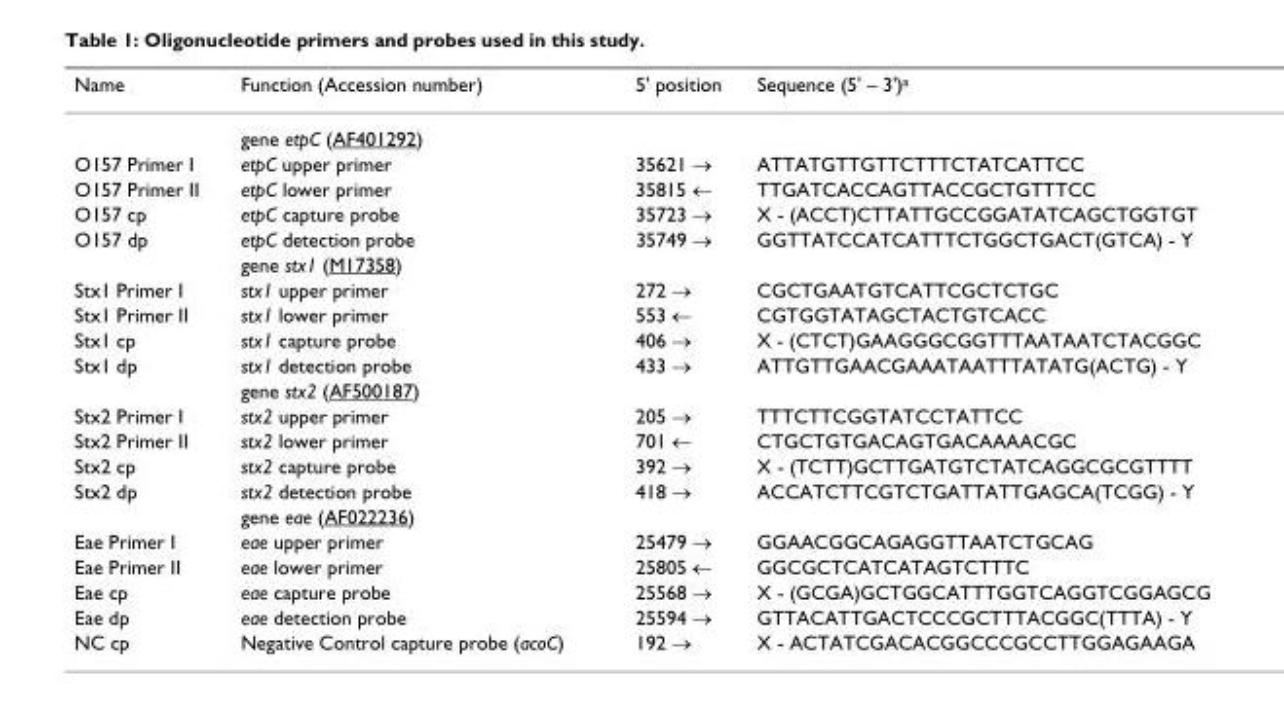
<table><thead><tr><td>Name</td><td>Function (Accession number)</td><td>5&#x27; position</td><td>Sequence (5&#x27; – 3&#x27;)<sup>a</sup></td></tr></thead><tbody><tr><td></td><td>gene etpC (AF401292)</td><td></td><td></td></tr><tr><td>O157 Primer I</td><td>etpC upper primer</td><td>35621 →</td><td>ATTATGTTGTTCTTTCTATCATTCC</td></tr><tr><td>O157 Primer II</td><td>etpC lower primer</td><td>35815 ←</td><td>TTGATCACCAGTTACCGCTGTTTCC</td></tr><tr><td>O157 cp</td><td>etpC capture probe</td><td>35723 →</td><td>X - (ACCT)CTTATTGCCGGATATCAGCTGGTGT</td></tr><tr><td rowspan="2">O157 dp</td><td>etpC detection probe</td><td>35749 →</td><td>GGTTATCCATCATTTCTGGCTGACT(GTCA) - Y</td></tr><tr><td>gene stx1 (M17358)</td><td></td><td></td></tr><tr><td>Stx1 Primer I</td><td>stx1 upper primer</td><td>272 →</td><td>CGCTGAATGTCATTCGCTCTGC</td></tr><tr><td>Stx1 Primer II</td><td>stx1 lower primer</td><td>553 ←</td><td>CGTGGTATAGCTACTGTCACC</td></tr><tr><td>Stx1 cp</td><td>stx1 capture probe</td><td>406 →</td><td>X - (CTCT)GAAGGGCGGTTTAATAATCTACGGC</td></tr><tr><td rowspan="2">Stx1 dp</td><td>stx1 detection probe</td><td>433 →</td><td>ATTGTTGAACGAAATAATTTATATG(ACTG) - Y</td></tr><tr><td>gene stx2 (AF500187)</td><td></td><td></td></tr><tr><td>Stx2 Primer I</td><td>stx2 upper primer</td><td>205 →</td><td>TTTCTTCGGTATCCTATTCC</td></tr><tr><td>Stx2 Primer II</td><td>stx2 lower primer</td><td>701 ←</td><td>CTGCTGTGACAGTGACAAAACGC</td></tr><tr><td>Stx2 cp</td><td>stx2 capture probe</td><td>392 →</td><td>X - (TCTT)GCTTGATGTCTATCAGGCGCGTTTT</td></tr><tr><td rowspan="2">Stx2 dp</td><td>stx2 detection probe</td><td>418 →</td><td>ACCATCTTCGTCTGATTATTGAGCA(TCGG) - Y</td></tr><tr><td>gene eae (AF022236)</td><td></td><td></td></tr><tr><td>Eae Primer I</td><td>eae upper primer</td><td>25479 →</td><td>GGAACGGCAGAGGTTAATCTGCAG</td></tr><tr><td>Eae Primer II</td><td>eae lower primer</td><td>25805 ←</td><td>GGCGCTCATCATAGTCTTTC</td></tr><tr><td>Eae cp</td><td>eae capture probe</td><td>25568 →</td><td>X - (GCGA)GCTGGCATTTGGTCAGGTCGGAGCG</td></tr><tr><td>Eae dp</td><td>eae detection probe</td><td>25594 →</td><td>GTTACATTGACTCCCGCTTTACGGC(TTTA) - Y</td></tr><tr><td>NC cp</td><td>Negative Control capture probe (acoC)</td><td>192 →</td><td>X - ACTATCGACACGGCCCGCCTTGGAGAAGA</td></tr></tbody></table>